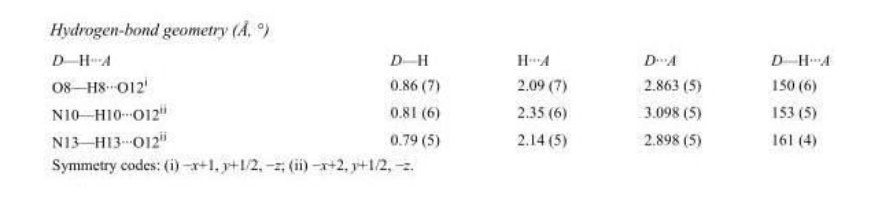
<table><tbody><tr><td>D—H···A</td><td>D—H</td><td>H···A</td><td>D···A</td><td>D—H···A</td></tr><tr><td>O8—H8···O12<sup>i</sup></td><td>0.86 (7)</td><td>2.09 (7)</td><td>2.863 (5)</td><td>150 (6)</td></tr><tr><td>N10—H10···O12<sup>ii</sup></td><td>0.81 (6)</td><td>2.35 (6)</td><td>3.098 (5)</td><td>153 (5)</td></tr><tr><td>N13—H13···O12<sup>ii</sup></td><td>0.79 (5)</td><td>2.14 (5)</td><td>2.898 (5)</td><td>161 (4)</td></tr></tbody></table>